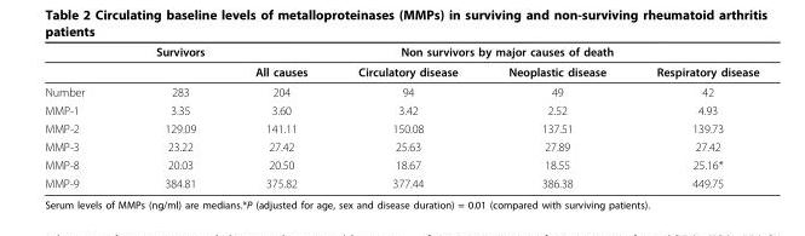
<table><thead><tr><td rowspan="2"></td><td rowspan="2">Survivors</td><td colspan="4">Non survivors by major causes of death</td></tr><tr><td>All causes</td><td>Circulatory disease</td><td>Neoplastic disease</td><td>Respiratory disease</td></tr></thead><tbody><tr><td>Number</td><td>283</td><td>204</td><td>94</td><td>49</td><td>42</td></tr><tr><td>MMP-1</td><td>3.35</td><td>3.60</td><td>3.42</td><td>2.52</td><td>4.93</td></tr><tr><td>MMP-2</td><td>129.09</td><td>141.11</td><td>150.08</td><td>137.51</td><td>139.73</td></tr><tr><td>MMP-3</td><td>23.22</td><td>27.42</td><td>25.63</td><td>27.89</td><td>27.42</td></tr><tr><td>MMP-8</td><td>20.03</td><td>20.50</td><td>18.67</td><td>18.55</td><td>25.16*</td></tr><tr><td>MMP-9</td><td>384.81</td><td>375.82</td><td>377.44</td><td>386.38</td><td>449.75</td></tr></tbody></table>